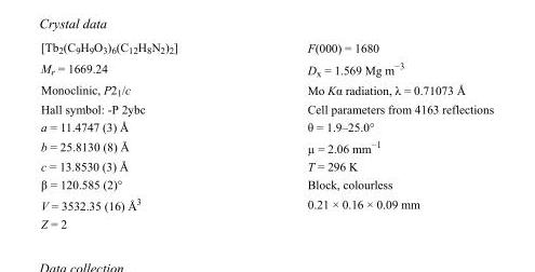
<table><tbody><tr><td>[Tb<sub>2</sub>(C<sub>9</sub>H<sub>9</sub>O<sub>3</sub>)<sub>6</sub>(C<sub>12</sub>H<sub>8</sub>N<sub>2</sub>)<sub>2</sub>]</td><td>F(000) = 1680</td></tr><tr><td>M<sub>r</sub> = 1669.24</td><td>D<sub>x</sub> = 1.569 Mg m<sup>−3</sup></td></tr><tr><td>Monoclinic, P2<sub>1</sub>/c</td><td>Mo Kα radiation, λ = 0.71073 Å</td></tr><tr><td>Hall symbol: -P 2ybc</td><td>Cell parameters from 4163 reflections</td></tr><tr><td>a = 11.4747 (3) Å</td><td>θ = 1.9–25.0°</td></tr><tr><td>b = 25.8130 (8) Å</td><td>µ = 2.06 mm<sup>−1</sup></td></tr><tr><td>c = 13.8530 (3) Å</td><td>T = 296 K</td></tr><tr><td>β = 120.585 (2)°</td><td>Block, colourless</td></tr><tr><td>V = 3532.35 (16) Å<sup>3</sup></td><td>0.21 × 0.16 × 0.09 mm</td></tr><tr><td>Z = 2</td><td></td></tr></tbody></table>